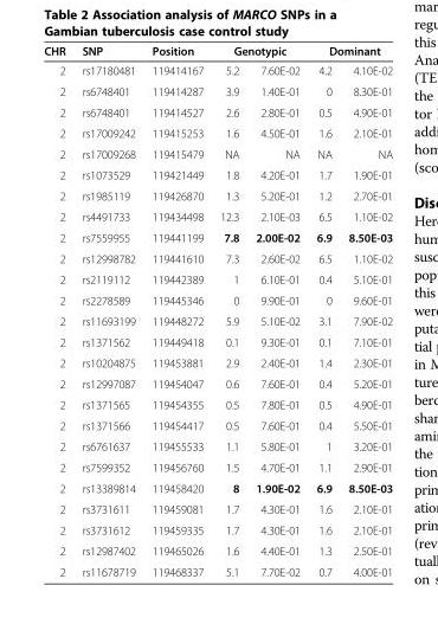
<table><thead><tr><td rowspan="2">CHR 2</td><td rowspan="2">SNP rs17180481</td><td rowspan="2">Position 119414167</td><td colspan="2">Genotypic</td><td colspan="2">Dominant</td></tr><tr><td>5.2</td><td>7.60E-02</td><td>4.2</td><td>4.10E-02</td></tr></thead><tbody><tr><td>2</td><td>rs6748401</td><td>119414287</td><td>3.9</td><td>1.40E-01</td><td>0</td><td>8.30E-01</td></tr><tr><td>2</td><td>rs6748401</td><td>119414527</td><td>2.6</td><td>2.80E-01</td><td>0.5</td><td>4.90E-01</td></tr><tr><td>2</td><td>rs17009242</td><td>119415253</td><td>1.6</td><td>4.50E-01</td><td>1.6</td><td>2.10E-01</td></tr><tr><td>2</td><td>rs17009268</td><td>119415479</td><td>NA</td><td>NA</td><td>NA</td><td>NA</td></tr><tr><td>2</td><td>rs1073529</td><td>119421449</td><td>1.8</td><td>4.20E-01</td><td>1.7</td><td>1.90E-01</td></tr><tr><td>2</td><td>rs1985119</td><td>119426870</td><td>1.3</td><td>5.20E-01</td><td>1.2</td><td>2.70E-01</td></tr><tr><td>2</td><td>rs4491733</td><td>119434498</td><td>12.3</td><td>2.10E-03</td><td>6.5</td><td>1.10E-02</td></tr><tr><td>2</td><td>rs7559955</td><td>119441199</td><td>7.8</td><td>2.00E-02</td><td>6.9</td><td>8.50E-03</td></tr><tr><td>2</td><td>rs12998782</td><td>119441610</td><td>7.3</td><td>2.60E-02</td><td>6.5</td><td>1.10E-02</td></tr><tr><td>2</td><td>rs2119112</td><td>119442389</td><td>1</td><td>6.10E-01</td><td>0.4</td><td>5.10E-01</td></tr><tr><td>2</td><td>rs2278589</td><td>119445346</td><td>0</td><td>9.90E-01</td><td>0</td><td>9.60E-01</td></tr><tr><td>2</td><td>rs11693199</td><td>119448272</td><td>5.9</td><td>5.10E-02</td><td>3.1</td><td>7.90E-02</td></tr><tr><td>2</td><td>rs1371562</td><td>119449418</td><td>0.1</td><td>9.30E-01</td><td>0.1</td><td>7.10E-01</td></tr><tr><td>2</td><td>rs10204875</td><td>119453881</td><td>2.9</td><td>2.40E-01</td><td>1.4</td><td>2.30E-01</td></tr><tr><td>2</td><td>rs12997087</td><td>119454047</td><td>0.6</td><td>7.60E-01</td><td>0.4</td><td>5.20E-01</td></tr><tr><td>2</td><td>rs1371565</td><td>119454355</td><td>0.5</td><td>7.80E-01</td><td>0.5</td><td>4.90E-01</td></tr><tr><td>2</td><td>rs1371566</td><td>119454417</td><td>0.5</td><td>7.60E-01</td><td>0.4</td><td>5.50E-01</td></tr><tr><td>2</td><td>rs6761637</td><td>119455533</td><td>1.1</td><td>5.80E-01</td><td>1</td><td>3.20E-01</td></tr><tr><td>2</td><td>rs7599352</td><td>119456760</td><td>1.5</td><td>4.70E-01</td><td>1.1</td><td>2.90E-01</td></tr><tr><td>2</td><td>rs13389814</td><td>119458420</td><td>8</td><td>1.90E-02</td><td>6.9</td><td>8.50E-03</td></tr><tr><td>2</td><td>rs3731611</td><td>119459081</td><td>1.7</td><td>4.30E-01</td><td>1.6</td><td>2.10E-01</td></tr><tr><td>2</td><td>rs3731612</td><td>119459335</td><td>1.7</td><td>4.30E-01</td><td>1.6</td><td>2.10E-01</td></tr><tr><td>2</td><td>rs12987402</td><td>119465026</td><td>1.6</td><td>4.40E-01</td><td>1.3</td><td>2.50E-01</td></tr><tr><td>2</td><td>rs11678719</td><td>119468337</td><td>5.1</td><td>7.70E-02</td><td>0.7</td><td>4.00E-01</td></tr></tbody></table>